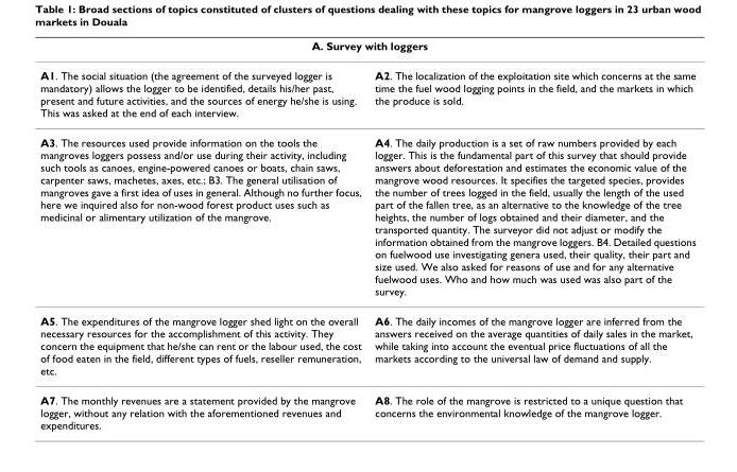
<table><thead><tr><td colspan="2">A. Survey with loggers</td></tr><tr><td>A1. The social situation (the agreement of the surveyed logger is mandatory) allows the logger to be identified, details his/her past, present and future activities, and the sources of energy he/she is using. This was asked at the end of each interview.</td><td>A2. The localization of the exploitation site which concerns at the same time the fuel wood logging points in the field, and the markets in which the produce is sold.</td></tr></thead><tbody><tr><td>A3. The resources used provide information on the tools the mangroves loggers possess and/or use during their activity, including such tools as canoes, engine-powered canoes or boats, chain saws, carpenter saws, machetes, axes, etc.; B3. The general utilisation of mangroves gave a first idea of uses in general. Although no further focus, here we inquired also for non-wood forest product uses such as medicinal or alimentary utilization of the mangrove.</td><td>A4. The daily production is a set of raw numbers provided by each logger. This is the fundamental part of this survey that should provide answers about deforestation and estimates the economic value of the mangrove wood resources. It specifies the targeted species, provides the number of trees logged in the field, usually the length of the used part of the fallen tree, as an alternative to the knowledge of the tree heights, the number of logs obtained and their diameter, and the transported quantity. The surveyor did not adjust or modify the information obtained from the mangrove loggers. B4. Detailed questions on fuelwood use investigating genera used, their quality, their part and size used. We also asked for reasons of use and for any alternative fuelwood uses. Who and how much was used was also part of the survey.</td></tr><tr><td>A5. The expenditures of the mangrove logger shed light on the overall necessary resources for the accomplishment of this activity. They concern the equipment that he/she can rent or the labour used, the cost of food eaten in the field, different types of fuels, reseller remuneration, etc.</td><td>A6. The daily incomes of the mangrove logger are inferred from the answers received on the average quantities of daily sales in the market, while taking into account the eventual price fluctuations of all the markets according to the universal law of demand and supply.</td></tr><tr><td>A7. The monthly revenues are a statement provided by the mangrove logger, without any relation with the aforementioned revenues and expenditures.</td><td>A8. The role of the mangrove is restricted to a unique question that concerns the environmental knowledge of the mangrove logger.</td></tr></tbody></table>